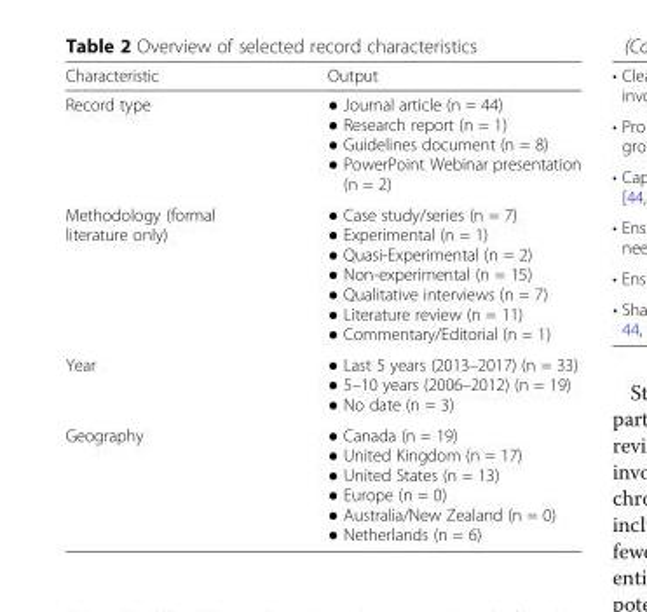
<table><thead><tr><td>Characteristic</td><td>Output</td></tr></thead><tbody><tr><td>Record type</td><td>● Journal article (n = 44) ● Research report (n = 1) ● Guidelines document (n = 8) ● PowerPoint Webinar presentation (n = 2)</td></tr><tr><td>Methodology (formal literature only)</td><td>● Case study/series (n = 7) ● Experimental (n = 1) ● Quasi-Experimental (n = 2) ● Non-experimental (n = 15) ● Qualitative interviews (n = 7) ● Literature review (n = 11) ● Commentary/Editorial (n = 1)</td></tr><tr><td>Year</td><td>● Last 5 years (2013–2017) (n = 33) ● 5–10 years (2006–2012) (n = 19) ● No date (n = 3)</td></tr><tr><td>Geography</td><td>● Canada (n = 19) ● United Kingdom (n = 17) ● United States (n = 13) ● Europe (n = 0) ● Australia/New Zealand (n = 0) ● Netherlands (n = 6)</td></tr></tbody></table>